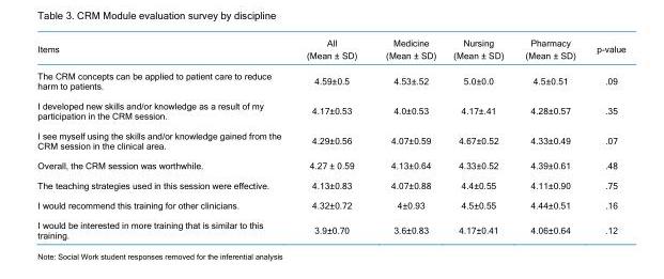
<table><thead><tr><td>Items</td><td>All (Mean ± SD)</td><td>Medicine (Mean ± SD)</td><td>Nursing (Mean ± SD)</td><td>Pharmacy (Mean ± SD)</td><td>p-value</td></tr></thead><tbody><tr><td>The CRM concepts can be applied to patient care to reduce harm to patients.</td><td>4.59±0.5</td><td>4.53±.52</td><td>5.0±0.0</td><td>4.5±0.51</td><td>.09</td></tr><tr><td>I developed new skills and/or knowledge as a result of my participation in the CRM session.</td><td>4.17±0.53</td><td>4.0±0.53</td><td>4.17±.41</td><td>4.28±0.57</td><td>.35</td></tr><tr><td>I see myself using the skills and/or knowledge gained from the CRM session in the clinical area.</td><td>4.29±0.56</td><td>4.07±0.59</td><td>4.67±0.52</td><td>4.33±0.49</td><td>.07</td></tr><tr><td>Overall, the CRM session was worthwhile.</td><td>4.27 ± 0.59</td><td>4.13±0.64</td><td>4.33±0.52</td><td>4.39±0.61</td><td>.48</td></tr><tr><td>The teaching strategies used in this session were effective.</td><td>4.13±0.83</td><td>4.07±0.88</td><td>4.4±0.55</td><td>4.11±0.90</td><td>.75</td></tr><tr><td>I would recommend this training for other clinicians.</td><td>4.32±0.72</td><td>4±0.93</td><td>4.5±0.55</td><td>4.44±0.51</td><td>.16</td></tr><tr><td>I would be interested in more training that is similar to this training.</td><td>3.9±0.70</td><td>3.6±0.83</td><td>4.17±0.41</td><td>4.06±0.64</td><td>.12</td></tr></tbody></table>